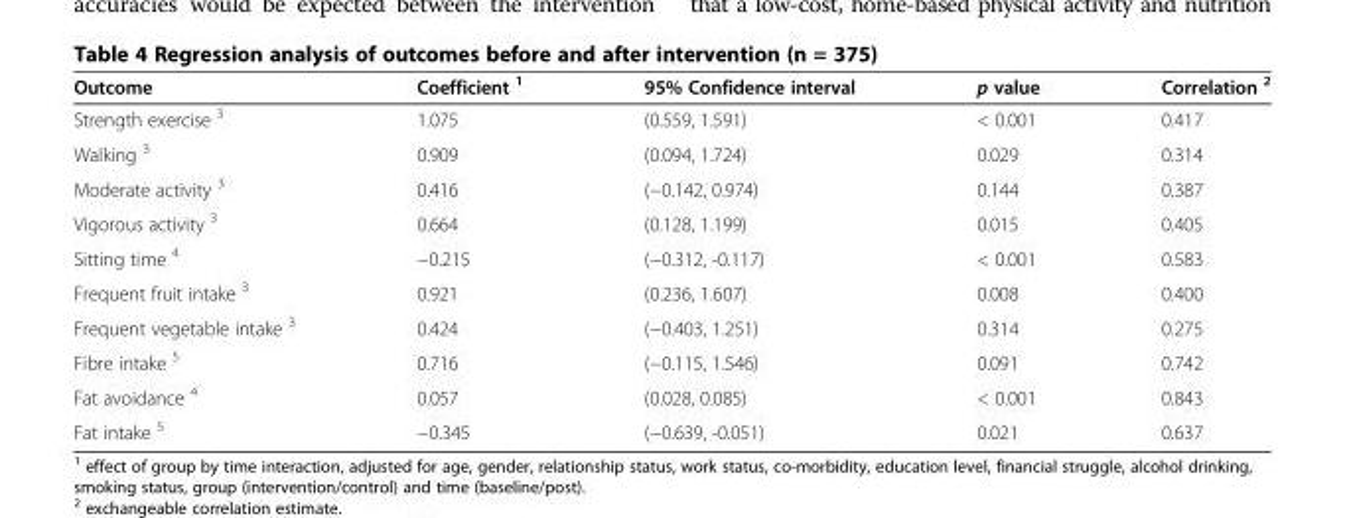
<table><thead><tr><td>Outcome</td><td>Coefficient <sup>1</sup></td><td>95% Confidence interval</td><td>p value</td><td>Correlation <sup>2</sup></td></tr></thead><tbody><tr><td>Strength exercise <sup>3</sup></td><td>1.075</td><td>(0.559, 1.591)</td><td>&lt; 0.001</td><td>0.417</td></tr><tr><td>Walking <sup>3</sup></td><td>0.909</td><td>(0.094, 1.724)</td><td>0.029</td><td>0.314</td></tr><tr><td>Moderate activity <sup>3</sup></td><td>0.416</td><td>(−0.142, 0.974)</td><td>0.144</td><td>0.387</td></tr><tr><td>Vigorous activity <sup>3</sup></td><td>0.664</td><td>(0.128, 1.199)</td><td>0.015</td><td>0.405</td></tr><tr><td>Sitting time <sup>4</sup></td><td>−0.215</td><td>(−0.312, -0.117)</td><td>&lt; 0.001</td><td>0.583</td></tr><tr><td>Frequent fruit intake <sup>3</sup></td><td>0.921</td><td>(0.236, 1.607)</td><td>0.008</td><td>0.400</td></tr><tr><td>Frequent vegetable intake <sup>3</sup></td><td>0.424</td><td>(−0.403, 1.251)</td><td>0.314</td><td>0.275</td></tr><tr><td>Fibre intake <sup>5</sup></td><td>0.716</td><td>(−0.115, 1.546)</td><td>0.091</td><td>0.742</td></tr><tr><td>Fat avoidance <sup>4</sup></td><td>0.057</td><td>(0.028, 0.085)</td><td>&lt; 0.001</td><td>0.843</td></tr><tr><td>Fat intake <sup>5</sup></td><td>−0.345</td><td>(−0.639, -0.051)</td><td>0.021</td><td>0.637</td></tr></tbody></table>